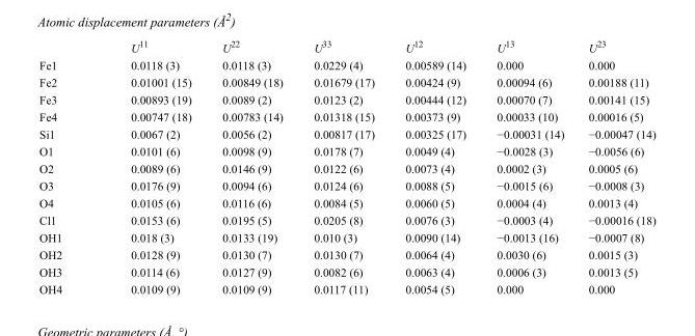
<table><thead><tr><td></td><td>U<sup>11</sup></td><td>U<sup>22</sup></td><td>U<sup>33</sup></td><td>U<sup>12</sup></td><td>U<sup>13</sup></td><td>U<sup>23</sup></td></tr></thead><tbody><tr><td>Fe1</td><td>0.0118 (3)</td><td>0.0118 (3)</td><td>0.0229 (4)</td><td>0.00589 (14)</td><td>0.000</td><td>0.000</td></tr><tr><td>Fe2</td><td>0.01001 (15)</td><td>0.00849 (18)</td><td>0.01679 (17)</td><td>0.00424 (9)</td><td>0.00094 (6)</td><td>0.00188 (11)</td></tr><tr><td>Fe3</td><td>0.00893 (19)</td><td>0.0089 (2)</td><td>0.0123 (2)</td><td>0.00444 (12)</td><td>0.00070 (7)</td><td>0.00141 (15)</td></tr><tr><td>Fe4</td><td>0.00747 (18)</td><td>0.00783 (14)</td><td>0.01318 (15)</td><td>0.00373 (9)</td><td>0.00033 (10)</td><td>0.00016 (5)</td></tr><tr><td>Si1</td><td>0.0067 (2)</td><td>0.0056 (2)</td><td>0.00817 (17)</td><td>0.00325 (17)</td><td>−0.00031 (14)</td><td>−0.00047 (14)</td></tr><tr><td>O1</td><td>0.0101 (6)</td><td>0.0098 (9)</td><td>0.0178 (7)</td><td>0.0049 (4)</td><td>−0.0028 (3)</td><td>−0.0056 (6)</td></tr><tr><td>O2</td><td>0.0089 (6)</td><td>0.0146 (9)</td><td>0.0122 (6)</td><td>0.0073 (4)</td><td>0.0002 (3)</td><td>0.0005 (6)</td></tr><tr><td>O3</td><td>0.0176 (9)</td><td>0.0094 (6)</td><td>0.0124 (6)</td><td>0.0088 (5)</td><td>−0.0015 (6)</td><td>−0.0008 (3)</td></tr><tr><td>O4</td><td>0.0105 (6)</td><td>0.0116 (6)</td><td>0.0084 (5)</td><td>0.0060 (5)</td><td>0.0004 (4)</td><td>0.0013 (4)</td></tr><tr><td>Cl1</td><td>0.0153 (6)</td><td>0.0195 (5)</td><td>0.0205 (8)</td><td>0.0076 (3)</td><td>−0.0003 (4)</td><td>−0.00016 (18)</td></tr><tr><td>OH1</td><td>0.018 (3)</td><td>0.0133 (19)</td><td>0.010 (3)</td><td>0.0090 (14)</td><td>−0.0013 (16)</td><td>−0.0007 (8)</td></tr><tr><td>OH2</td><td>0.0128 (9)</td><td>0.0130 (7)</td><td>0.0130 (7)</td><td>0.0064 (4)</td><td>0.0030 (6)</td><td>0.0015 (3)</td></tr><tr><td>OH3</td><td>0.0114 (6)</td><td>0.0127 (9)</td><td>0.0082 (6)</td><td>0.0063 (4)</td><td>0.0006 (3)</td><td>0.0013 (5)</td></tr><tr><td>OH4</td><td>0.0109 (9)</td><td>0.0109 (9)</td><td>0.0117 (11)</td><td>0.0054 (5)</td><td>0.000</td><td>0.000</td></tr></tbody></table>